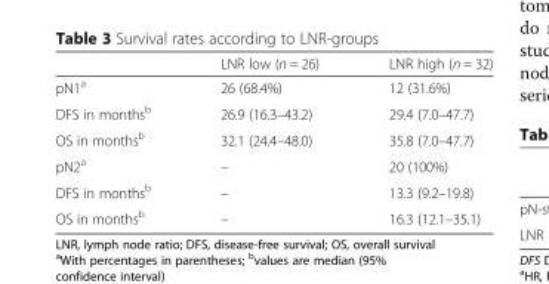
<table><thead><tr><td></td><td>LNR low (n = 26)</td><td>LNR high (n = 32)</td></tr></thead><tbody><tr><td>pN1<sup>a</sup></td><td>26 (68.4%)</td><td>12 (31.6%)</td></tr><tr><td>DFS in months<sup>b</sup></td><td>26.9 (16.3–43.2)</td><td>29.4 (7.0–47.7)</td></tr><tr><td>OS in months<sup>b</sup></td><td>32.1 (24.4–48.0)</td><td>35.8 (7.0–47.7)</td></tr><tr><td>pN2<sup>a</sup></td><td>–</td><td>20 (100%)</td></tr><tr><td>DFS in months<sup>b</sup></td><td>–</td><td>13.3 (9.2–19.8)</td></tr><tr><td>OS in months<sup>b</sup></td><td>–</td><td>16.3 (12.1–35.1)</td></tr></tbody></table>